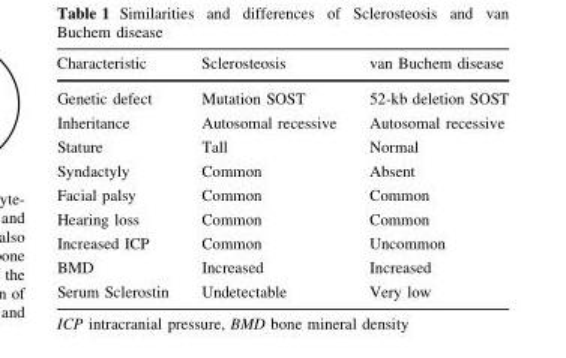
<table><thead><tr><td>Characteristic</td><td>Sclerosteosis</td><td>van Buchem disease</td></tr></thead><tbody><tr><td>Genetic defect</td><td>Mutation SOST</td><td>52-kb deletion SOST</td></tr><tr><td>Inheritance</td><td>Autosomal recessive</td><td>Autosomal recessive</td></tr><tr><td>Stature</td><td>Tall</td><td>Normal</td></tr><tr><td>Syndactyly</td><td>Common</td><td>Absent</td></tr><tr><td>Facial palsy</td><td>Common</td><td>Common</td></tr><tr><td>Hearing loss</td><td>Common</td><td>Common</td></tr><tr><td>Increased ICP</td><td>Common</td><td>Uncommon</td></tr><tr><td>BMD</td><td>Increased</td><td>Increased</td></tr><tr><td>Serum Sclerostin</td><td>Undetectable</td><td>Very low</td></tr></tbody></table>